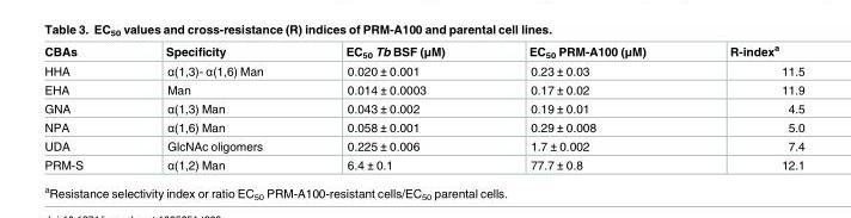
<table><thead><tr><td>CBAs</td><td>Specificity</td><td>EC<sub>50</sub> Tb BSF (μM)</td><td>EC<sub>50</sub> PRM-A100 (μM)</td><td>R-index<sup>a</sup></td></tr></thead><tbody><tr><td>HHA</td><td>α(1,3)- α(1,6) Man</td><td>0.020 ± 0.001</td><td>0.23 ± 0.03</td><td>11.5</td></tr><tr><td>EHA</td><td>Man</td><td>0.014 ± 0.0003</td><td>0.17 ± 0.02</td><td>11.9</td></tr><tr><td>GNA</td><td>α(1,3) Man</td><td>0.043 ± 0.002</td><td>0.19 ± 0.01</td><td>4.5</td></tr><tr><td>NPA</td><td>α(1,6) Man</td><td>0.058 ± 0.001</td><td>0.29 ± 0.008</td><td>5.0</td></tr><tr><td>UDA</td><td>GlcNAc oligomers</td><td>0.225 ± 0.006</td><td>1.7 ± 0.002</td><td>7.4</td></tr><tr><td>PRM-S</td><td>α(1,2) Man</td><td>6.4 ± 0.1</td><td>77.7 ± 0.8</td><td>12.1</td></tr></tbody></table>